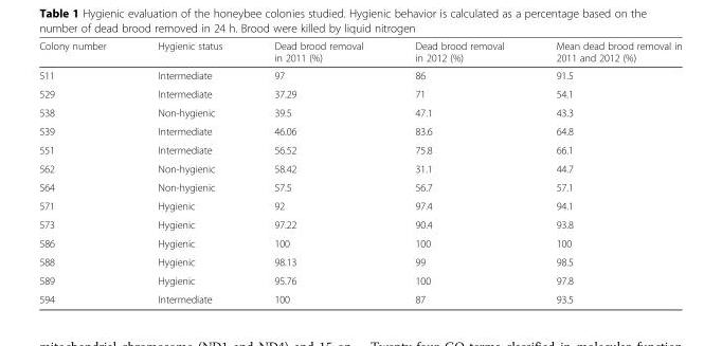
<table><thead><tr><td>Colony number</td><td>Hygienic status</td><td>Dead brood removal in 2011 (%)</td><td>Dead brood removal in 2012 (%)</td><td>Mean dead brood removal in 2011 and 2012 (%)</td></tr></thead><tbody><tr><td>511</td><td>Intermediate</td><td>97</td><td>86</td><td>91.5</td></tr><tr><td>529</td><td>Intermediate</td><td>37.29</td><td>71</td><td>54.1</td></tr><tr><td>538</td><td>Non-hygienic</td><td>39.5</td><td>47.1</td><td>43.3</td></tr><tr><td>539</td><td>Intermediate</td><td>46.06</td><td>83.6</td><td>64.8</td></tr><tr><td>551</td><td>Intermediate</td><td>56.52</td><td>75.8</td><td>66.1</td></tr><tr><td>562</td><td>Non-hygienic</td><td>58.42</td><td>31.1</td><td>44.7</td></tr><tr><td>564</td><td>Non-hygienic</td><td>57.5</td><td>56.7</td><td>57.1</td></tr><tr><td>571</td><td>Hygienic</td><td>92</td><td>97.4</td><td>94.1</td></tr><tr><td>573</td><td>Hygienic</td><td>97.22</td><td>90.4</td><td>93.8</td></tr><tr><td>586</td><td>Hygienic</td><td>100</td><td>100</td><td>100</td></tr><tr><td>588</td><td>Hygienic</td><td>98.13</td><td>99</td><td>98.5</td></tr><tr><td>589</td><td>Hygienic</td><td>95.76</td><td>100</td><td>97.8</td></tr><tr><td>594</td><td>Intermediate</td><td>100</td><td>87</td><td>93.5</td></tr></tbody></table>